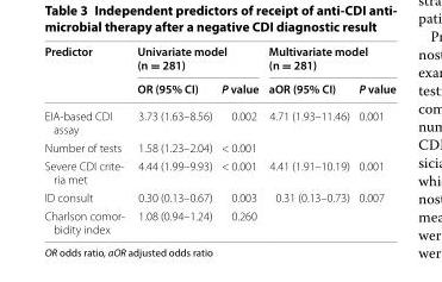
<table><thead><tr><td rowspan="2">Predictor</td><td colspan="2">Univariate model (n = 281)</td><td colspan="2">Multivariate model (n = 281)</td></tr><tr><td>OR (95% CI)</td><td>P value</td><td>aOR (95% CI)</td><td>P value</td></tr></thead><tbody><tr><td>EIA-based CDI assay</td><td>3.73 (1.63–8.56)</td><td>0.002</td><td>4.71 (1.93–11.46)</td><td>0.001</td></tr><tr><td>Number of tests</td><td>1.58 (1.23–2.04)</td><td>&lt; 0.001</td><td></td><td></td></tr><tr><td>Severe CDI crite- ria met</td><td>4.44 (1.99–9.93)</td><td>&lt; 0.001</td><td>4.41 (1.91–10.19)</td><td>0.001</td></tr><tr><td>ID consult</td><td>0.30 (0.13–0.67)</td><td>0.003</td><td>0.31 (0.13–0.73)</td><td>0.007</td></tr><tr><td>Charlson comor- bidity index</td><td>1.08 (0.94–1.24)</td><td>0.260</td><td></td><td></td></tr></tbody></table>